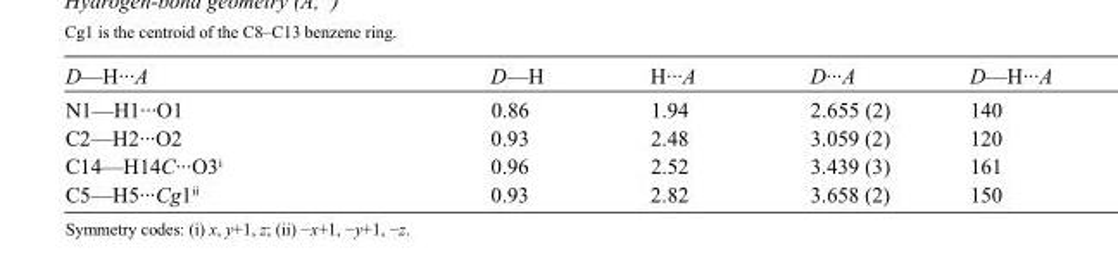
<table><tbody><tr><td>D—H···A</td><td>D—H</td><td>H···A</td><td>D···A</td><td>D—H···A</td></tr><tr><td>N1—H1···O1</td><td>0.86</td><td>1.94</td><td>2.655 (2)</td><td>140</td></tr><tr><td>C2—H2···O2</td><td>0.93</td><td>2.48</td><td>3.059 (2)</td><td>120</td></tr><tr><td>C14—H14C···O3<sup>i</sup></td><td>0.96</td><td>2.52</td><td>3.439 (3)</td><td>161</td></tr><tr><td>C5—H5···Cg1<sup>ii</sup></td><td>0.93</td><td>2.82</td><td>3.658 (2)</td><td>150</td></tr></tbody></table>